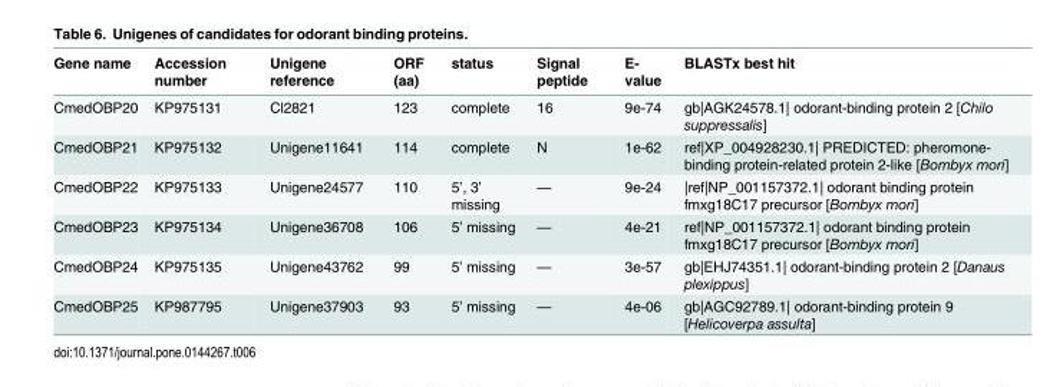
<table><thead><tr><td>Gene name</td><td>Accession number</td><td>Unigene reference</td><td>ORF (aa)</td><td>status</td><td>Signal peptide</td><td>E- value</td><td>BLASTx best hit</td></tr></thead><tbody><tr><td>CmedOBP20</td><td>KP975131</td><td>Cl2821</td><td>123</td><td>complete</td><td>16</td><td>9e-74</td><td>gb|AGK24578.1| odorant-binding protein 2 [Chilo suppressalis]</td></tr><tr><td>CmedOBP21</td><td>KP975132</td><td>Unigene11641</td><td>114</td><td>complete</td><td>N</td><td>1e-62</td><td>ref|XP_004928230.1| PREDICTED: pheromone- binding protein-related protein 2-like [Bombyx mori]</td></tr><tr><td>CmedOBP22</td><td>KP975133</td><td>Unigene24577</td><td>110</td><td>5’, 3’ missing</td><td>—</td><td>9e-24</td><td>|ref|NP_001157372.1| odorant binding protein fmxg18C17 precursor [Bombyx mori]</td></tr><tr><td>CmedOBP23</td><td>KP975134</td><td>Unigene36708</td><td>106</td><td>5’ missing</td><td>—</td><td>4e-21</td><td>ref|NP_001157372.1| odorant binding protein fmxg18C17 precursor [Bombyx mori]</td></tr><tr><td>CmedOBP24</td><td>KP975135</td><td>Unigene43762</td><td>99</td><td>5’ missing</td><td>—</td><td>3e-57</td><td>gb|EHJ74351.1| odorant-binding protein 2 [Danaus plexippus]</td></tr><tr><td>CmedOBP25</td><td>KP987795</td><td>Unigene37903</td><td>93</td><td>5’ missing</td><td>—</td><td>4e-06</td><td>gb|AGC92789.1| odorant-binding protein 9 [Helicoverpa assulta]</td></tr></tbody></table>